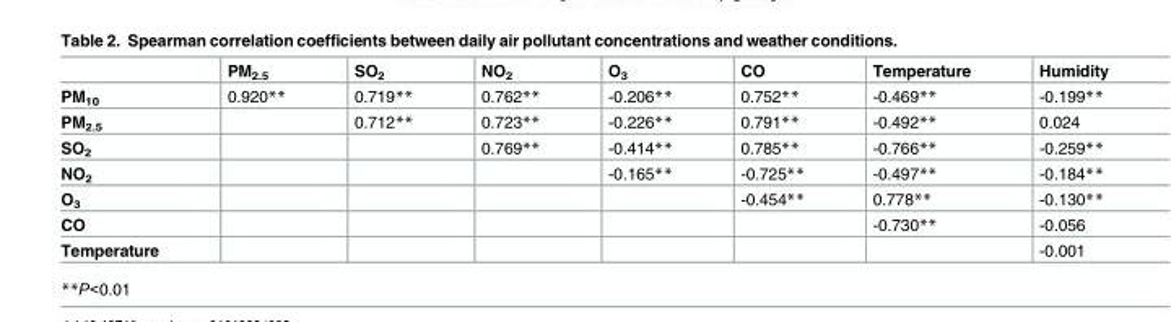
<table><thead><tr><td></td><td>PM<sub>2.5</sub></td><td>SO<sub>2</sub></td><td>NO<sub>2</sub></td><td>O<sub>3</sub></td><td>CO</td><td>Temperature</td><td>Humidity</td></tr></thead><tbody><tr><td>PM<sub>10</sub></td><td>0.920**</td><td>0.719**</td><td>0.762**</td><td>-0.206**</td><td>0.752**</td><td>-0.469**</td><td>-0.199**</td></tr><tr><td>PM<sub>2.5</sub></td><td></td><td>0.712**</td><td>0.723**</td><td>-0.226**</td><td>0.791**</td><td>-0.492**</td><td>0.024</td></tr><tr><td>SO<sub>2</sub></td><td></td><td></td><td>0.769**</td><td>-0.414**</td><td>0.785**</td><td>-0.766**</td><td>-0.259**</td></tr><tr><td>NO<sub>2</sub></td><td></td><td></td><td></td><td>-0.165**</td><td>-0.725**</td><td>-0.497**</td><td>-0.184**</td></tr><tr><td>O<sub>3</sub></td><td></td><td></td><td></td><td></td><td>-0.454**</td><td>0.778**</td><td>-0.130**</td></tr><tr><td>CO</td><td></td><td></td><td></td><td></td><td></td><td>-0.730**</td><td>-0.056</td></tr><tr><td>Temperature</td><td></td><td></td><td></td><td></td><td></td><td></td><td>-0.001</td></tr></tbody></table>